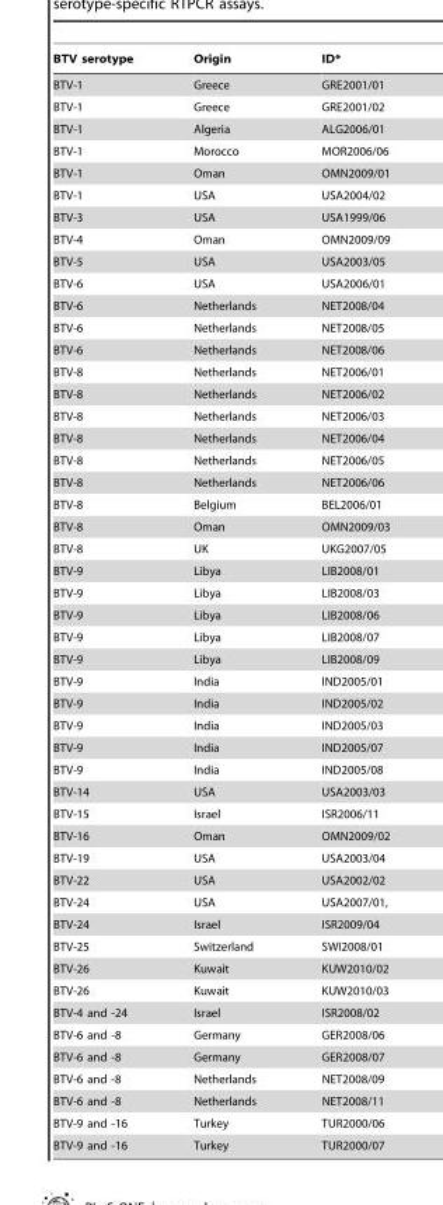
<table><thead><tr><td>BTV serotype</td><td>Origin</td><td>ID*</td></tr></thead><tbody><tr><td>BTV-1</td><td>Greece</td><td>GRE2001/01</td></tr><tr><td>BTV-1</td><td>Greece</td><td>GRE2001/02</td></tr><tr><td>BTV-1</td><td>Algeria</td><td>ALG2006/01</td></tr><tr><td>BTV-1</td><td>Morocco</td><td>MOR2006/06</td></tr><tr><td>BTV-1</td><td>Oman</td><td>OMN2009/01</td></tr><tr><td>BTV-1</td><td>USA</td><td>USA2004/02</td></tr><tr><td>BTV-3</td><td>USA</td><td>USA1999/06</td></tr><tr><td>BTV-4</td><td>Oman</td><td>OMN2009/09</td></tr><tr><td>BTV-5</td><td>USA</td><td>USA2003/05</td></tr><tr><td>BTV-6</td><td>USA</td><td>USA2006/01</td></tr><tr><td>BTV-6</td><td>Netherlands</td><td>NET2008/04</td></tr><tr><td>BTV-6</td><td>Netherlands</td><td>NET2008/05</td></tr><tr><td>BTV-6</td><td>Netherlands</td><td>NET2008/06</td></tr><tr><td>BTV-8</td><td>Netherlands</td><td>NET2006/01</td></tr><tr><td>BTV-8</td><td>Netherlands</td><td>NET2006/02</td></tr><tr><td>BTV-8</td><td>Netherlands</td><td>NET2006/03</td></tr><tr><td>BTV-8</td><td>Netherlands</td><td>NET2006/04</td></tr><tr><td>BTV-8</td><td>Netherlands</td><td>NET2006/05</td></tr><tr><td>BTV-8</td><td>Netherlands</td><td>NET2006/06</td></tr><tr><td>BTV-8</td><td>Belgium</td><td>BEL2006/01</td></tr><tr><td>BTV-8</td><td>Oman</td><td>OMN2009/03</td></tr><tr><td>BTV-8</td><td>UK</td><td>UKG2007/05</td></tr><tr><td>BTV-9</td><td>Libya</td><td>LIB2008/01</td></tr><tr><td>BTV-9</td><td>Libya</td><td>LIB2008/03</td></tr><tr><td>BTV-9</td><td>Libya</td><td>LIB2008/06</td></tr><tr><td>BTV-9</td><td>Libya</td><td>LIB2008/07</td></tr><tr><td>BTV-9</td><td>Libya</td><td>LIB2008/09</td></tr><tr><td>BTV-9</td><td>India</td><td>IND2005/01</td></tr><tr><td>BTV-9</td><td>India</td><td>IND2005/02</td></tr><tr><td>BTV-9</td><td>India</td><td>IND2005/03</td></tr><tr><td>BTV-9</td><td>India</td><td>IND2005/07</td></tr><tr><td>BTV-9</td><td>India</td><td>IND2005/08</td></tr><tr><td>BTV-14</td><td>USA</td><td>USA2003/03</td></tr><tr><td>BTV-15</td><td>Israel</td><td>ISR2006/11</td></tr><tr><td>BTV-16</td><td>Oman</td><td>OMN2009/02</td></tr><tr><td>BTV-19</td><td>USA</td><td>USA2003/04</td></tr><tr><td>BTV-22</td><td>USA</td><td>USA2002/02</td></tr><tr><td>BTV-24</td><td>USA</td><td>USA2007/01,</td></tr><tr><td>BTV-24</td><td>Israel</td><td>ISR2009/04</td></tr><tr><td>BTV-25</td><td>Switzerland</td><td>SWI2008/01</td></tr><tr><td>BTV-26</td><td>Kuwait</td><td>KUW2010/02</td></tr><tr><td>BTV-26</td><td>Kuwait</td><td>KUW2010/03</td></tr><tr><td>BTV-4 and -24</td><td>Israel</td><td>ISR2008/02</td></tr><tr><td>BTV-6 and -8</td><td>Germany</td><td>GER2008/06</td></tr><tr><td>BTV-6 and -8</td><td>Germany</td><td>GER2008/07</td></tr><tr><td>BTV-6 and -8</td><td>Netherlands</td><td>NET2008/09</td></tr><tr><td>BTV-6 and -8</td><td>Netherlands</td><td>NET2008/11</td></tr><tr><td>BTV-9 and -16</td><td>Turkey</td><td>TUR2000/06</td></tr><tr><td>BTV-9 and -16</td><td>Turkey</td><td>TUR2000/07</td></tr></tbody></table>